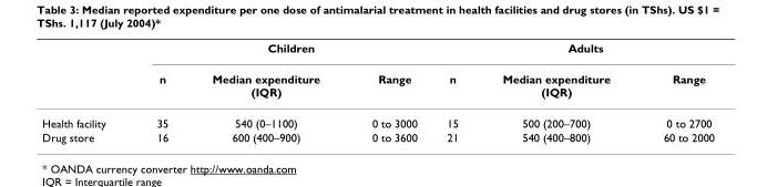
<table><thead><tr><td rowspan="2"></td><td colspan="3">Children</td><td colspan="3">Adults</td></tr><tr><td>n</td><td>Median expenditure (IQR)</td><td>Range</td><td>n</td><td>Median expenditure (IQR)</td><td>Range</td></tr></thead><tbody><tr><td>Health facility</td><td>35</td><td>540 (0–1100)</td><td>0 to 3000</td><td>15</td><td>500 (200–700)</td><td>0 to 2700</td></tr><tr><td>Drug store</td><td>16</td><td>600 (400–900)</td><td>0 to 3600</td><td>21</td><td>540 (400–800)</td><td>60 to 2000</td></tr></tbody></table>